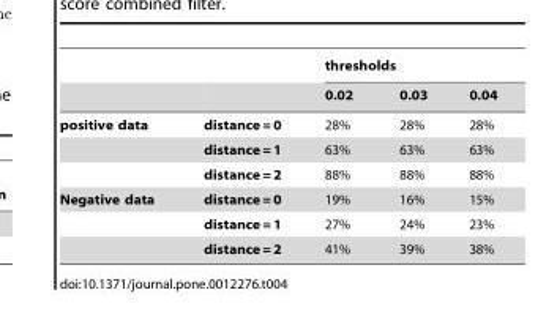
<table><thead><tr><td rowspan="2"></td><td rowspan="2"></td><td colspan="3">thresholds</td></tr><tr><td>0.02</td><td>0.03</td><td>0.04</td></tr></thead><tbody><tr><td rowspan="3">positive data</td><td>distance = 0</td><td>28%</td><td>28%</td><td>28%</td></tr><tr><td>distance = 1</td><td>63%</td><td>63%</td><td>63%</td></tr><tr><td>distance = 2</td><td>88%</td><td>88%</td><td>88%</td></tr><tr><td rowspan="3">Negative data</td><td>distance = 0</td><td>19%</td><td>16%</td><td>15%</td></tr><tr><td>distance = 1</td><td>27%</td><td>24%</td><td>23%</td></tr><tr><td>distance = 2</td><td>41%</td><td>39%</td><td>38%</td></tr></tbody></table>